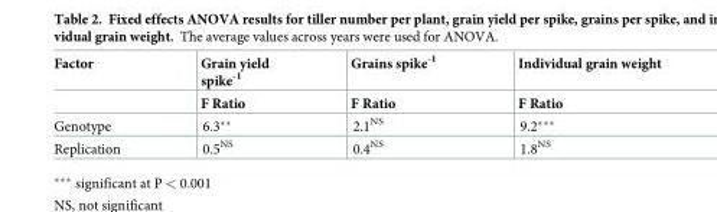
<table><thead><tr><td rowspan="2">Factor</td><td rowspan="2">Grain yield spike<sup>-1</sup> F Ratio</td><td rowspan="2">Grains spike<sup>-1</sup> F Ratio</td><td rowspan="2">Individual grain weight F Ratio</td></tr><tr></tr></thead><tbody><tr><td>Genotype</td><td>6.3**</td><td>2.1<sup>NS</sup></td><td>9.2***</td></tr><tr><td>Replication</td><td>0.5<sup>NS</sup></td><td>0.4<sup>NS</sup></td><td>1.8<sup>NS</sup></td></tr></tbody></table>